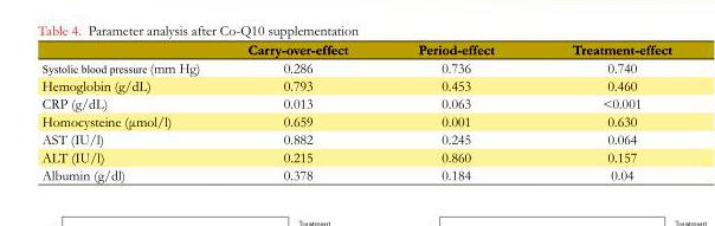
<table><thead><tr><td></td><td>Carry-over-effect</td><td>Period-effect</td><td>Treatment-effect</td></tr></thead><tbody><tr><td>Systolic blood pressure (mm Hg)</td><td>0.286</td><td>0.736</td><td>0.740</td></tr><tr><td>Hemoglobin (g/dL)</td><td>0.793</td><td>0.453</td><td>0.460</td></tr><tr><td>CRP (g/dL)</td><td>0.013</td><td>0.063</td><td>&lt;0.001</td></tr><tr><td>Homocysteine (μmol/l)</td><td>0.659</td><td>0.001</td><td>0.630</td></tr><tr><td>AST (IU/l)</td><td>0.882</td><td>0.245</td><td>0.064</td></tr><tr><td>ALT (IU/l)</td><td>0.215</td><td>0.860</td><td>0.157</td></tr><tr><td>Albumin (g/dl)</td><td>0.378</td><td>0.184</td><td>0.04</td></tr></tbody></table>